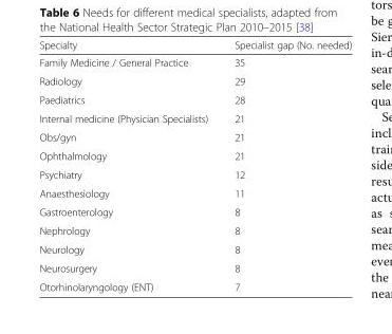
<table><thead><tr><td>Specialty</td><td>Specialist gap (No. needed)</td></tr></thead><tbody><tr><td>Family Medicine / General Practice</td><td>35</td></tr><tr><td>Radiology</td><td>29</td></tr><tr><td>Paediatrics</td><td>28</td></tr><tr><td>Internal medicine (Physician Specialists)</td><td>21</td></tr><tr><td>Obs/gyn</td><td>21</td></tr><tr><td>Ophthalmology</td><td>21</td></tr><tr><td>Psychiatry</td><td>12</td></tr><tr><td>Anaesthesiology</td><td>11</td></tr><tr><td>Gastroenterology</td><td>8</td></tr><tr><td>Nephrology</td><td>8</td></tr><tr><td>Neurology</td><td>8</td></tr><tr><td>Neurosurgery</td><td>8</td></tr><tr><td>Otorhinolaryngology (ENT)</td><td>7</td></tr></tbody></table>